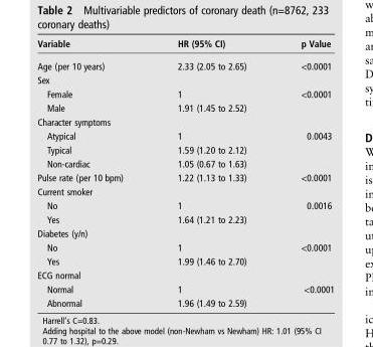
<table><thead><tr><td>Variable</td><td>HR (95% CI)</td><td>p Value</td></tr></thead><tbody><tr><td>Age (per 10 years)</td><td>2.33 (2.05 to 2.65)</td><td>&lt;0.0001</td></tr><tr><td colspan="3">Sex</td></tr><tr><td>Female</td><td>1</td><td>&lt;0.0001</td></tr><tr><td>Male</td><td>1.91 (1.45 to 2.52)</td><td></td></tr><tr><td colspan="3">Character symptoms</td></tr><tr><td>Atypical</td><td>1</td><td>0.0043</td></tr><tr><td>Typical</td><td>1.59 (1.20 to 2.12)</td><td></td></tr><tr><td>Non-cardiac</td><td>1.05 (0.67 to 1.63)</td><td></td></tr><tr><td>Pulse rate (per 10 bpm)</td><td>1.22 (1.13 to 1.33)</td><td>&lt;0.0001</td></tr><tr><td colspan="3">Current smoker</td></tr><tr><td>No</td><td>1</td><td>0.0016</td></tr><tr><td>Yes</td><td>1.64 (1.21 to 2.23)</td><td></td></tr><tr><td colspan="3">Diabetes (y/n)</td></tr><tr><td>No</td><td>1</td><td>&lt;0.0001</td></tr><tr><td>Yes</td><td>1.99 (1.46 to 2.70)</td><td></td></tr><tr><td colspan="3">ECG normal</td></tr><tr><td>Normal</td><td>1</td><td>&lt;0.0001</td></tr><tr><td>Abnormal</td><td>1.96 (1.49 to 2.59)</td><td></td></tr></tbody></table>